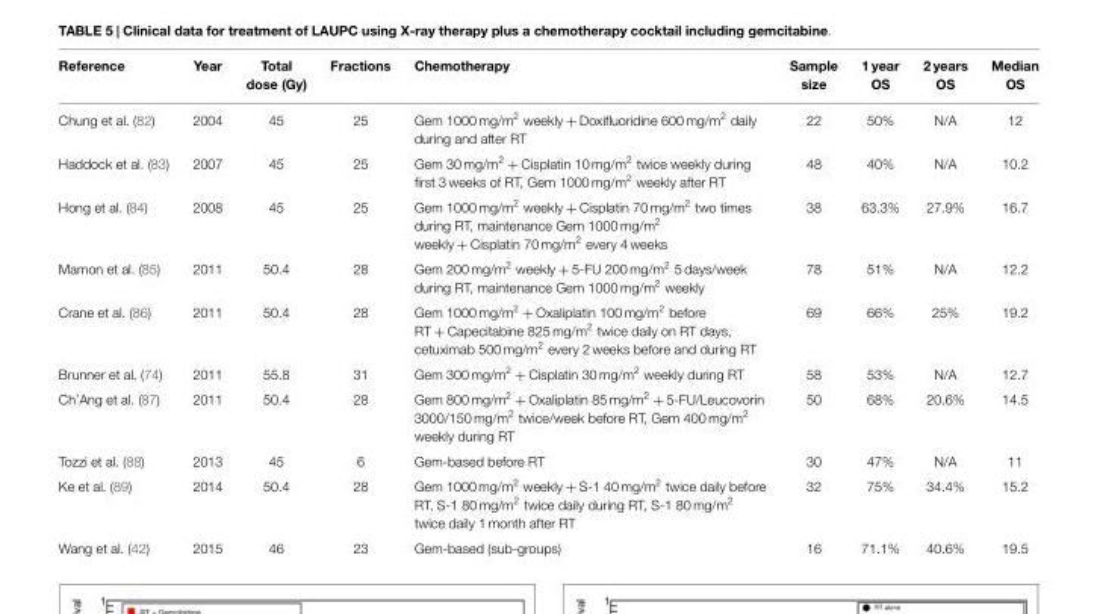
<table><thead><tr><td>Reference</td><td>Year</td><td>Total dose (Gy)</td><td>Fractions</td><td>Chemotherapy</td><td>Sample size</td><td>1 year OS</td><td>2 years OS</td><td>Median OS</td></tr></thead><tbody><tr><td>Chung et al. (82)</td><td>2004</td><td>45</td><td>25</td><td>Gem 1000 mg/m<sup>2</sup> weekly + Doxifluoridine 600 mg/m<sup>2</sup> daily during and after RT</td><td>22</td><td>50%</td><td>N/A</td><td>12</td></tr><tr><td>Haddock et al. (83)</td><td>2007</td><td>45</td><td>25</td><td>Gem 30 mg/m<sup>2</sup> + Cisplatin 10 mg/m<sup>2</sup> twice weekly during first 3 weeks of RT, Gem 1000 mg/m<sup>2</sup> weekly after RT</td><td>48</td><td>40%</td><td>N/A</td><td>10.2</td></tr><tr><td>Hong et al. (84)</td><td>2008</td><td>45</td><td>25</td><td>Gem 1000 mg/m<sup>2</sup> weekly + Cisplatin 70 mg/m<sup>2</sup> two times during RT, maintenance Gem 1000 mg/m<sup>2</sup> weekly + Cisplatin 70 mg/m<sup>2</sup> every 4 weeks</td><td>38</td><td>63.3%</td><td>27.9%</td><td>16.7</td></tr><tr><td>Mamon et al. (85)</td><td>2011</td><td>50.4</td><td>28</td><td>Gem 200 mg/m<sup>2</sup> weekly + 5-FU 200 mg/m<sup>2</sup> 5 days/week during RT, maintenance Gem 1000 mg/m<sup>2</sup> weekly</td><td>78</td><td>51%</td><td>N/A</td><td>12.2</td></tr><tr><td>Crane et al. (86)</td><td>2011</td><td>50.4</td><td>28</td><td>Gem 1000 mg/m<sup>2</sup> + Oxaliplatin 100 mg/m<sup>2</sup> before RT + Capecitabine 825 mg/m<sup>2</sup> twice daily on RT days, cetuximab 500 mg/m<sup>2</sup> every 2 weeks before and during RT</td><td>69</td><td>66%</td><td>25%</td><td>19.2</td></tr><tr><td>Brunner et al. (74)</td><td>2011</td><td>55.8</td><td>31</td><td>Gem 300 mg/m<sup>2</sup> + Cisplatin 30 mg/m<sup>2</sup> weekly during RT</td><td>58</td><td>53%</td><td>N/A</td><td>12.7</td></tr><tr><td>Ch’Ang et al. (87)</td><td>2011</td><td>50.4</td><td>28</td><td>Gem 800 mg/m<sup>2</sup> + Oxaliplatin 85 mg/m<sup>2</sup> + 5-FU/Leucovorin 3000/150 mg/m<sup>2</sup> twice/week before RT, Gem 400 mg/m<sup>2</sup> weekly during RT</td><td>50</td><td>68%</td><td>20.6%</td><td>14.5</td></tr><tr><td>Tozzi et al. (88)</td><td>2013</td><td>45</td><td>6</td><td>Gem-based before RT</td><td>30</td><td>47%</td><td>N/A</td><td>11</td></tr><tr><td>Ke et al. (89)</td><td>2014</td><td>50.4</td><td>28</td><td>Gem 1000 mg/m<sup>2</sup> weekly + S-1 40 mg/m<sup>2</sup> twice daily before RT, S-1 80 mg/m<sup>2</sup> twice daily during RT, S-1 80 mg/m<sup>2</sup> twice daily 1 month after RT</td><td>32</td><td>75%</td><td>34.4%</td><td>15.2</td></tr><tr><td>Wang et al. (42)</td><td>2015</td><td>46</td><td>23</td><td>Gem-based (sub-groups)</td><td>16</td><td>71.1%</td><td>40.6%</td><td>19.5</td></tr></tbody></table>